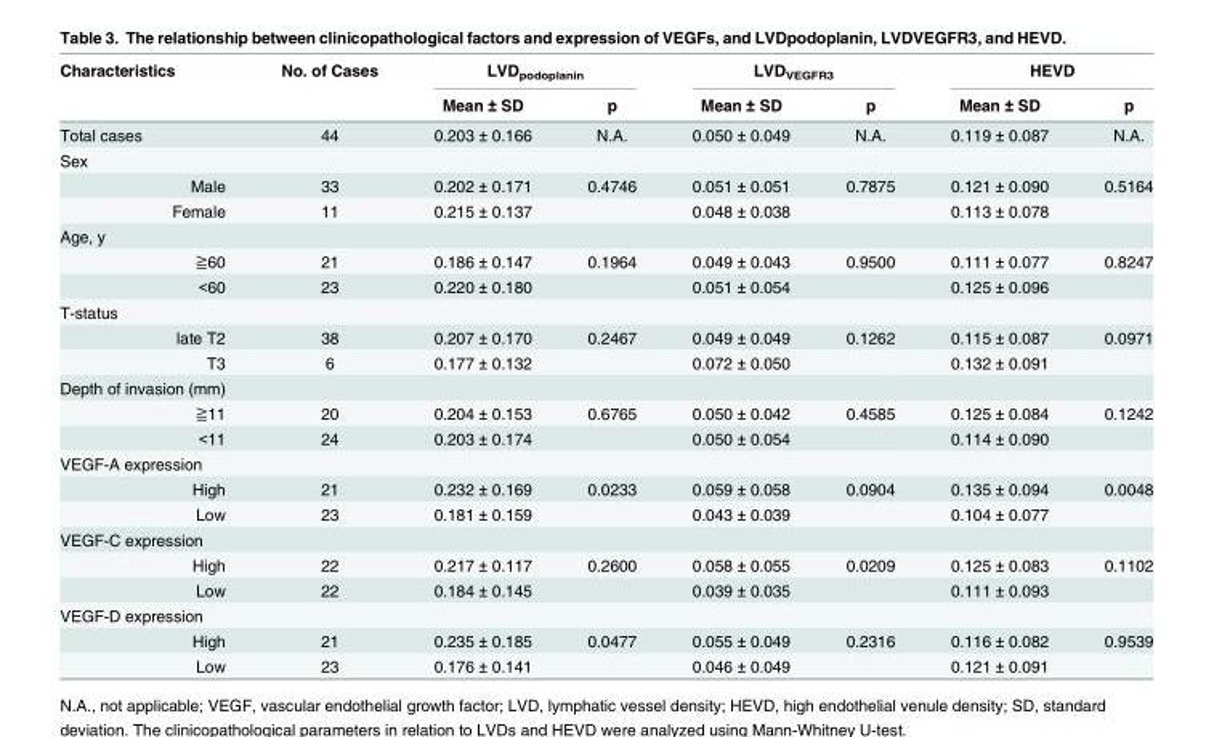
<table><thead><tr><td rowspan="2">Characteristics</td><td rowspan="2">No. of Cases</td><td colspan="2">LVD<sub>podoplanin</sub></td><td colspan="2">LVD<sub>VEGFR3</sub></td><td colspan="2">HEVD</td></tr><tr><td>Mean ± SD</td><td>p</td><td>Mean ± SD</td><td>p</td><td>Mean ± SD</td><td>p</td></tr></thead><tbody><tr><td>Total cases</td><td>44</td><td>0.203 ± 0.166</td><td>N.A.</td><td>0.050 ± 0.049</td><td>N.A.</td><td>0.119 ± 0.087</td><td>N.A.</td></tr><tr><td colspan="8">Sex</td></tr><tr><td>Male</td><td>33</td><td>0.202 ± 0.171</td><td>0.4746</td><td>0.051 ± 0.051</td><td>0.7875</td><td>0.121 ± 0.090</td><td>0.5164</td></tr><tr><td>Female</td><td>11</td><td>0.215 ± 0.137</td><td></td><td>0.048 ± 0.038</td><td></td><td>0.113 ± 0.078</td><td></td></tr><tr><td colspan="8">Age, y</td></tr><tr><td>≧60</td><td>21</td><td>0.186 ± 0.147</td><td>0.1964</td><td>0.049 ± 0.043</td><td>0.9500</td><td>0.111 ± 0.077</td><td>0.8247</td></tr><tr><td>&lt;60</td><td>23</td><td>0.220 ± 0.180</td><td></td><td>0.051 ± 0.054</td><td></td><td>0.125 ± 0.096</td><td></td></tr><tr><td colspan="8">T-status</td></tr><tr><td>late T2</td><td>38</td><td>0.207 ± 0.170</td><td>0.2467</td><td>0.049 ± 0.049</td><td>0.1262</td><td>0.115 ± 0.087</td><td>0.0971</td></tr><tr><td>T3</td><td>6</td><td>0.177 ± 0.132</td><td></td><td>0.072 ± 0.050</td><td></td><td>0.132 ± 0.091</td><td></td></tr><tr><td colspan="8">Depth of invasion (mm)</td></tr><tr><td>≧11</td><td>20</td><td>0.204 ± 0.153</td><td>0.6765</td><td>0.050 ± 0.042</td><td>0.4585</td><td>0.125 ± 0.084</td><td>0.1242</td></tr><tr><td>&lt;11</td><td>24</td><td>0.203 ± 0.174</td><td></td><td>0.050 ± 0.054</td><td></td><td>0.114 ± 0.090</td><td></td></tr><tr><td colspan="8">VEGF-A expression</td></tr><tr><td>High</td><td>21</td><td>0.232 ± 0.169</td><td>0.0233</td><td>0.059 ± 0.058</td><td>0.0904</td><td>0.135 ± 0.094</td><td>0.0048</td></tr><tr><td>Low</td><td>23</td><td>0.181 ± 0.159</td><td></td><td>0.043 ± 0.039</td><td></td><td>0.104 ± 0.077</td><td></td></tr><tr><td colspan="8">VEGF-C expression</td></tr><tr><td>High</td><td>22</td><td>0.217 ± 0.117</td><td>0.2600</td><td>0.058 ± 0.055</td><td>0.0209</td><td>0.125 ± 0.083</td><td>0.1102</td></tr><tr><td>Low</td><td>22</td><td>0.184 ± 0.145</td><td></td><td>0.039 ± 0.035</td><td></td><td>0.111 ± 0.093</td><td></td></tr><tr><td colspan="8">VEGF-D expression</td></tr><tr><td>High</td><td>21</td><td>0.235 ± 0.185</td><td>0.0477</td><td>0.055 ± 0.049</td><td>0.2316</td><td>0.116 ± 0.082</td><td>0.9539</td></tr><tr><td>Low</td><td>23</td><td>0.176 ± 0.141</td><td></td><td>0.046 ± 0.049</td><td></td><td>0.121 ± 0.091</td><td></td></tr></tbody></table>